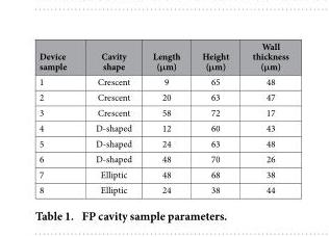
<table><thead><tr><td>Device sample</td><td>Cavity shape</td><td>Length (μm)</td><td>Height (μm)</td><td>Wall thickness (μm)</td></tr></thead><tbody><tr><td>1</td><td>Crescent</td><td>9</td><td>65</td><td>48</td></tr><tr><td>2</td><td>Crescent</td><td>20</td><td>63</td><td>47</td></tr><tr><td>3</td><td>Crescent</td><td>58</td><td>72</td><td>17</td></tr><tr><td>4</td><td>D-shaped</td><td>12</td><td>60</td><td>43</td></tr><tr><td>5</td><td>D-shaped</td><td>24</td><td>63</td><td>48</td></tr><tr><td>6</td><td>D-shaped</td><td>48</td><td>70</td><td>26</td></tr><tr><td>7</td><td>Elliptic</td><td>48</td><td>68</td><td>38</td></tr><tr><td>8</td><td>Elliptic</td><td>24</td><td>38</td><td>44</td></tr></tbody></table>